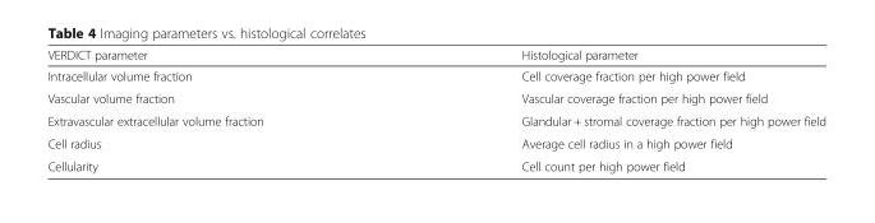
<table><thead><tr><td>VERDICT parameter</td><td>Histological parameter</td></tr></thead><tbody><tr><td>Intracellular volume fraction</td><td>Cell coverage fraction per high power field</td></tr><tr><td>Vascular volume fraction</td><td>Vascular coverage fraction per high power field</td></tr><tr><td>Extravascular extracellular volume fraction</td><td>Glandular + stromal coverage fraction per high power field</td></tr><tr><td>Cell radius</td><td>Average cell radius in a high power field</td></tr><tr><td>Cellularity</td><td>Cell count per high power field</td></tr></tbody></table>